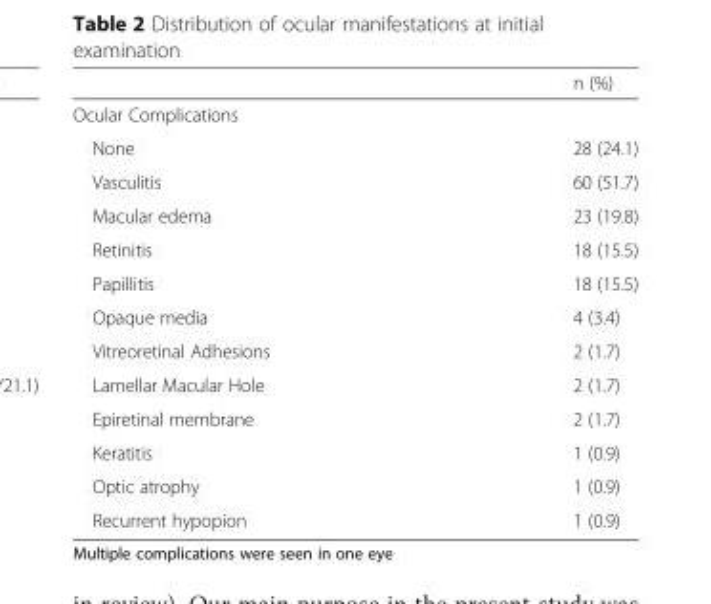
<table><thead><tr><td></td><td>n (%)</td></tr></thead><tbody><tr><td colspan="2">Ocular Complications</td></tr><tr><td>None</td><td>28 (24.1)</td></tr><tr><td>Vasculitis</td><td>60 (51.7)</td></tr><tr><td>Macular edema</td><td>23 (19.8)</td></tr><tr><td>Retinitis</td><td>18 (15.5)</td></tr><tr><td>Papillitis</td><td>18 (15.5)</td></tr><tr><td>Opaque media</td><td>4 (3.4)</td></tr><tr><td>Vitreoretinal Adhesions</td><td>2 (1.7)</td></tr><tr><td>Lamellar Macular Hole</td><td>2 (1.7)</td></tr><tr><td>Epiretinal membrane</td><td>2 (1.7)</td></tr><tr><td>Keratitis</td><td>1 (0.9)</td></tr><tr><td>Optic atrophy</td><td>1 (0.9)</td></tr><tr><td>Recurrent hypopion</td><td>1 (0.9)</td></tr></tbody></table>